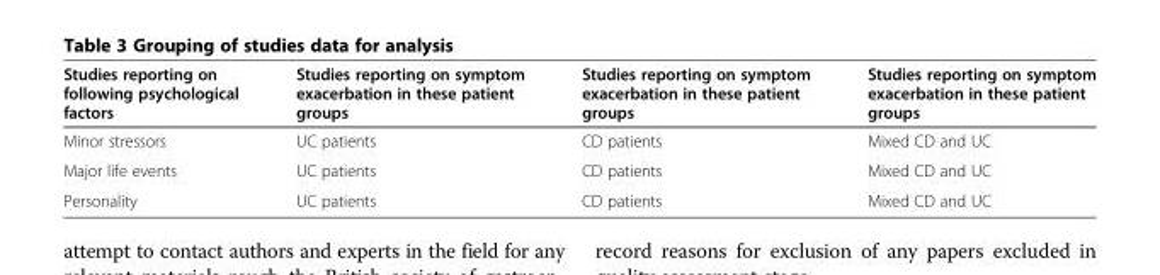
<table><thead><tr><td>Studies reporting on following psychological factors</td><td>Studies reporting on symptom exacerbation in these patient groups</td><td>Studies reporting on symptom exacerbation in these patient groups</td><td>Studies reporting on symptom exacerbation in these patient groups</td></tr></thead><tbody><tr><td>Minor stressors</td><td>UC patients</td><td>CD patients</td><td>Mixed CD and UC</td></tr><tr><td>Major life events</td><td>UC patients</td><td>CD patients</td><td>Mixed CD and UC</td></tr><tr><td>Personality</td><td>UC patients</td><td>CD patients</td><td>Mixed CD and UC</td></tr></tbody></table>